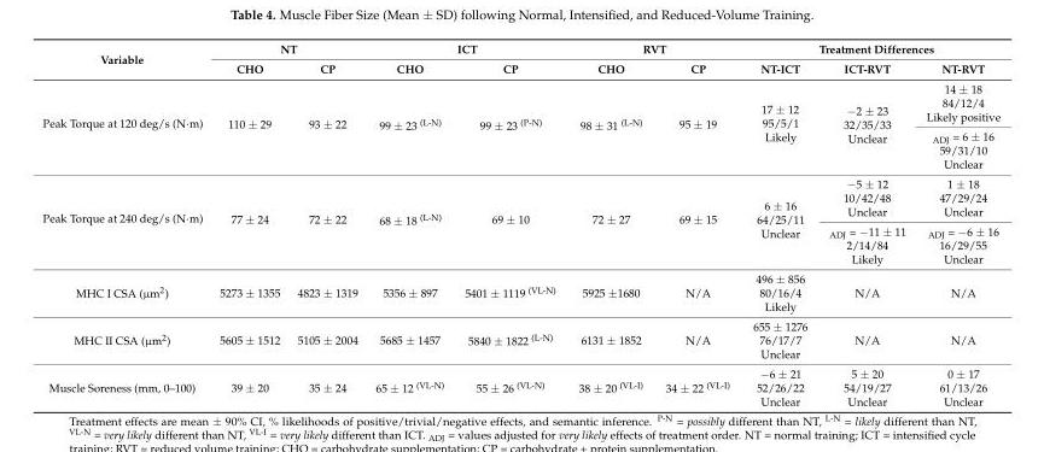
<table><thead><tr><td rowspan="2">Variable</td><td colspan="2">NT</td><td colspan="2">ICT</td><td colspan="2">RVT</td><td colspan="3">Treatment Differences</td></tr><tr><td>CHO</td><td>CP</td><td>CHO</td><td>CP</td><td>CHO</td><td>CP</td><td>NT-ICT</td><td>ICT-RVT</td><td>NT-RVT</td></tr></thead><tbody><tr><td rowspan="2">Peak Torque at 120 deg/s (N·m)</td><td rowspan="2">110 ± 29</td><td rowspan="2">93 ± 22</td><td rowspan="2">99 ± 23 <sup>(L-N)</sup></td><td rowspan="2">99 ± 23 <sup>(P-N)</sup></td><td rowspan="2">98 ± 31 <sup>(L-N)</sup></td><td rowspan="2">95 ± 19</td><td rowspan="2">17 ± 12 95/5/1 Likely</td><td rowspan="2">−2 ± 23 32/35/33 Unclear</td><td>14 ± 18 84/12/4 Likely positive</td></tr><tr><td><sub>ADJ</sub> = 6 ± 16 59/31/10 Unclear</td></tr><tr><td rowspan="2">Peak Torque at 240 deg/s (N·m)</td><td rowspan="2">77 ± 24</td><td rowspan="2">72 ± 22</td><td rowspan="2">68 ± 18 <sup>(L-N)</sup></td><td rowspan="2">69 ± 10</td><td rowspan="2">72 ± 27</td><td rowspan="2">69 ± 15</td><td rowspan="2">6 ± 16 64/25/11 Unclear</td><td>−5 ± 12 10/42/48 Unclear</td><td>1 ± 18 47/29/24 Unclear</td></tr><tr><td><sub>ADJ</sub> = −11 ± 11 2/14/84 Likely</td><td><sub>ADJ</sub> = −6 ± 16 16/29/55 Unclear</td></tr><tr><td>MHC I CSA (µm<sup>2</sup>)</td><td>5273 ± 1355</td><td>4823 ± 1319</td><td>5356 ± 897</td><td>5401 ± 1119 <sup>(VL-N)</sup></td><td>5925 ±1680</td><td>N/A</td><td>496 ± 856 80/16/4 Likely</td><td>N/A</td><td>N/A</td></tr><tr><td>MHC II CSA (µm<sup>2</sup>)</td><td>5605 ± 1512</td><td>5105 ± 2004</td><td>5685 ± 1457</td><td>5840 ± 1822 <sup>(L-N)</sup></td><td>6131 ± 1852</td><td>N/A</td><td>655 ± 1276 76/17/7 Unclear</td><td>N/A</td><td>N/A</td></tr><tr><td>Muscle Soreness (mm, 0–100)</td><td>39 ± 20</td><td>35 ± 24</td><td>65 ± 12 <sup>(VL-N)</sup></td><td>55 ± 26 <sup>(VL-N)</sup></td><td>38 ± 20 <sup>(VL-I)</sup></td><td>34 ± 22 <sup>(VL-I)</sup></td><td>−6 ± 21 52/26/22 Unclear</td><td>5 ± 20 54/19/27 Unclear</td><td>0 ± 17 61/13/26 Unclear</td></tr></tbody></table>